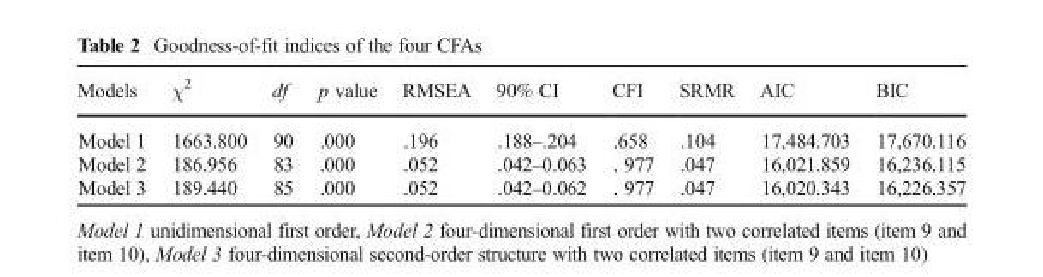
<table><thead><tr><td>Models</td><td>χ<sup>2</sup></td><td>df</td><td>p value</td><td>RMSEA</td><td>90% CI</td><td>CFI</td><td>SRMR</td><td>AIC</td><td>BIC</td></tr></thead><tbody><tr><td>Model 1</td><td>1663.800</td><td>90</td><td>.000</td><td>.196</td><td>.188–.204</td><td>.658</td><td>.104</td><td>17,484.703</td><td>17,670.116</td></tr><tr><td>Model 2</td><td>186.956</td><td>83</td><td>.000</td><td>.052</td><td>.042–0.063</td><td>. 977</td><td>.047</td><td>16,021.859</td><td>16,236.115</td></tr><tr><td>Model 3</td><td>189.440</td><td>85</td><td>.000</td><td>.052</td><td>.042–0.062</td><td>. 977</td><td>.047</td><td>16,020.343</td><td>16,226.357</td></tr></tbody></table>